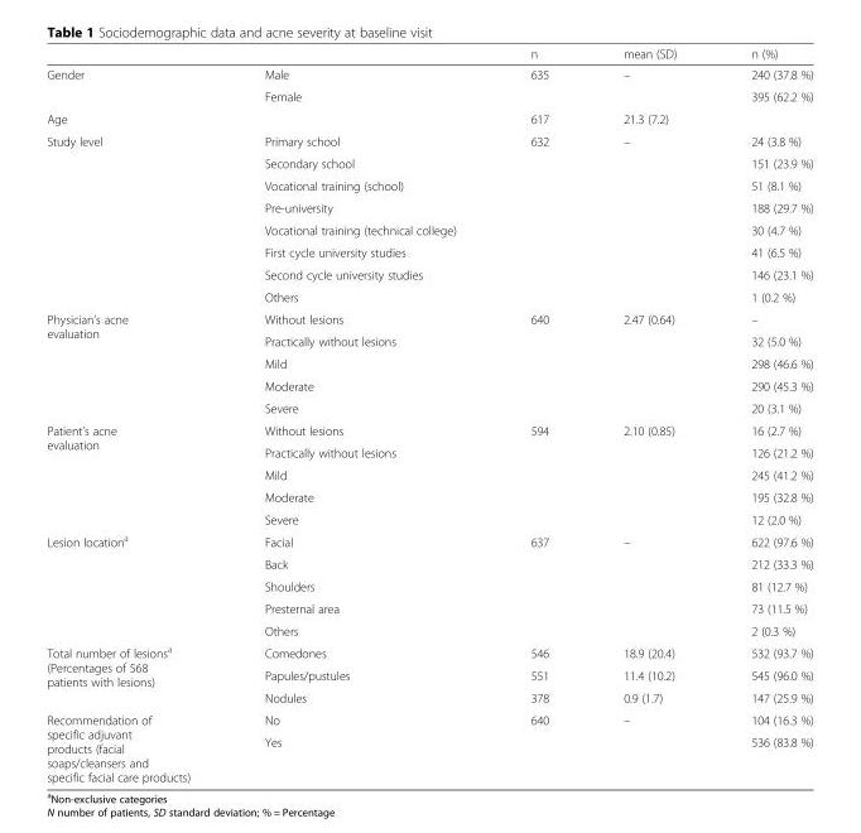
<table><thead><tr><td></td><td></td><td>n</td><td>mean (SD)</td><td>n (%)</td></tr></thead><tbody><tr><td rowspan="2">Gender</td><td>Male</td><td rowspan="2">635</td><td rowspan="2">–</td><td>240 (37.8 %)</td></tr><tr><td>Female</td><td>395 (62.2 %)</td></tr><tr><td colspan="2">Age</td><td>617</td><td>21.3 (7.2)</td><td></td></tr><tr><td rowspan="8">Study level</td><td>Primary school</td><td rowspan="8">632</td><td rowspan="8">–</td><td>24 (3.8 %)</td></tr><tr><td>Secondary school</td><td>151 (23.9 %)</td></tr><tr><td>Vocational training (school)</td><td>51 (8.1 %)</td></tr><tr><td>Pre-university</td><td>188 (29.7 %)</td></tr><tr><td>Vocational training (technical college)</td><td>30 (4.7 %)</td></tr><tr><td>First cycle university studies</td><td>41 (6.5 %)</td></tr><tr><td>Second cycle university studies</td><td>146 (23.1 %)</td></tr><tr><td>Others</td><td>1 (0.2 %)</td></tr><tr><td rowspan="5">Physician’s acne evaluation</td><td>Without lesions</td><td rowspan="5">640</td><td rowspan="5">2.47 (0.64)</td><td>–</td></tr><tr><td>Practically without lesions</td><td>32 (5.0 %)</td></tr><tr><td>Mild</td><td>298 (46.6 %)</td></tr><tr><td>Moderate</td><td>290 (45.3 %)</td></tr><tr><td>Severe</td><td>20 (3.1 %)</td></tr><tr><td rowspan="5">Patient’s acne evaluation</td><td>Without lesions</td><td rowspan="5">594</td><td rowspan="5">2.10 (0.85)</td><td>16 (2.7 %)</td></tr><tr><td>Practically without lesions</td><td>126 (21.2 %)</td></tr><tr><td>Mild</td><td>245 (41.2 %)</td></tr><tr><td>Moderate</td><td>195 (32.8 %)</td></tr><tr><td>Severe</td><td>12 (2.0 %)</td></tr><tr><td rowspan="5">Lesion location<sup>a</sup></td><td>Facial</td><td rowspan="5">637</td><td rowspan="5">–</td><td>622 (97.6 %)</td></tr><tr><td>Back</td><td>212 (33.3 %)</td></tr><tr><td>Shoulders</td><td>81 (12.7 %)</td></tr><tr><td>Presternal area</td><td>73 (11.5 %)</td></tr><tr><td>Others</td><td>2 (0.3 %)</td></tr><tr><td rowspan="3">Total number of lesions<sup>a</sup> (Percentages of 568 patients with lesions)</td><td>Comedones</td><td>546</td><td>18.9 (20.4)</td><td>532 (93.7 %)</td></tr><tr><td>Papules/pustules</td><td>551</td><td>11.4 (10.2)</td><td>545 (96.0 %)</td></tr><tr><td>Nodules</td><td>378</td><td>0.9 (1.7)</td><td>147 (25.9 %)</td></tr><tr><td rowspan="2">Recommendation of specific adjuvant products (facial soaps/cleansers and specific facial care products)</td><td>No</td><td rowspan="2">640</td><td rowspan="2">–</td><td>104 (16.3 %)</td></tr><tr><td>Yes</td><td>536 (83.8 %)</td></tr></tbody></table>